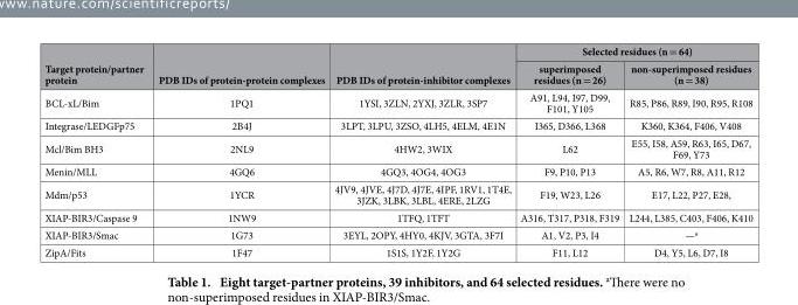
<table><thead><tr><td rowspan="2">Target protein/partner protein</td><td rowspan="2">PDB IDs of protein-protein complexes</td><td rowspan="2">PDB IDs of protein-inhibitor complexes</td><td colspan="2">Selected residues (n = 64)</td></tr><tr><td>superimposed residues (n = 26)</td><td>non-superimposed residues (n = 38)</td></tr></thead><tbody><tr><td>BCL-xL/Bim</td><td>1PQ1</td><td>1YSI, 3ZLN, 2YXJ, 3ZLR, 3SP7</td><td>A91, L94, I97, D99, F101, Y105</td><td>R85, P86, R89, I90, R95, R108</td></tr><tr><td>Integrase/LEDGFp75</td><td>2B4J</td><td>3LPT, 3LPU, 3ZSO, 4LH5, 4ELM, 4E1N</td><td>I365, D366, L368</td><td>K360, K364, F406, V408</td></tr><tr><td>Mcl/Bim BH3</td><td>2NL9</td><td>4HW2, 3WIX</td><td>L62</td><td>E55, I58, A59, R63, I65, D67, F69, Y73</td></tr><tr><td>Menin/MLL</td><td>4GQ6</td><td>4GQ3, 4OG4, 4OG3</td><td>F9, P10, P13</td><td>A5, R6, W7, R8, A11, R12</td></tr><tr><td>Mdm/p53</td><td>1YCR</td><td>4JV9, 4JVE, 4J7D, 4J7E, 4IPF, 1RV1, 1T4E, 3JZK, 3LBK, 3LBL, 4ERE, 2LZG</td><td>F19, W23, L26</td><td>E17, L22, P27, E28,</td></tr><tr><td>XIAP-BIR3/Caspase 9</td><td>1NW9</td><td>1TFQ, 1TFT</td><td>A316, T317, P318, F319</td><td>L244, L385, C403, F406, K410</td></tr><tr><td>XIAP-BIR3/Smac</td><td>1G73</td><td>3EYL, 2OPY, 4HY0, 4KJV, 3GTA, 3F7I</td><td>A1, V2, P3, I4</td><td>—a</td></tr><tr><td>ZipA/Fits</td><td>1F47</td><td>1S1S, 1Y2F, 1Y2G</td><td>F11, L12</td><td>D4, Y5, L6, D7, I8</td></tr></tbody></table>